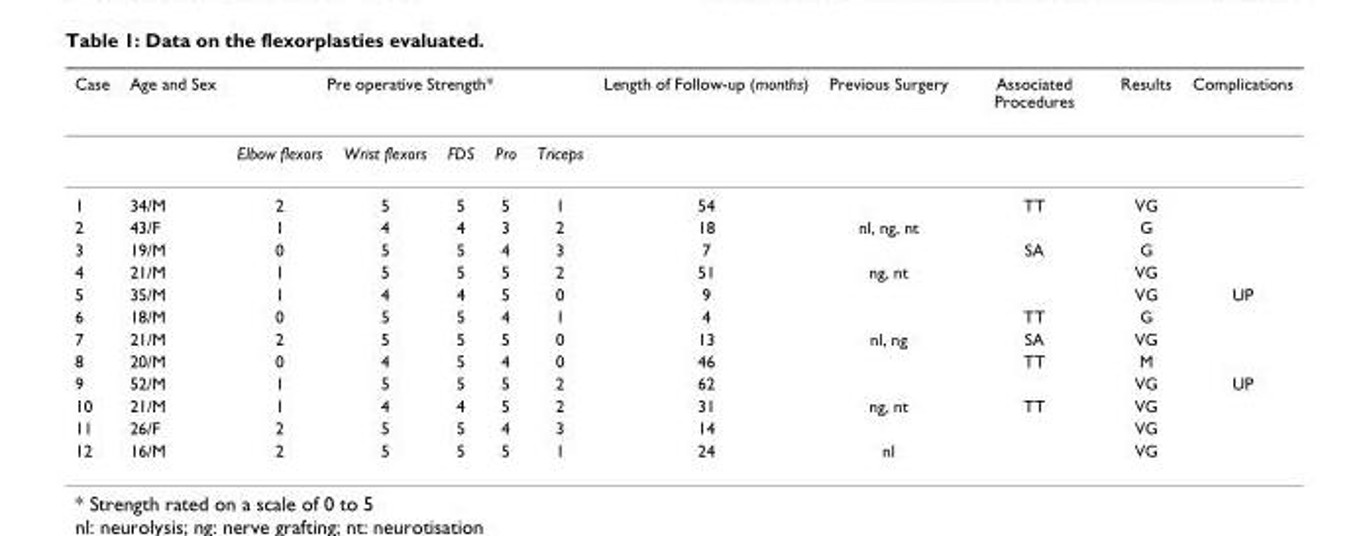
<table><thead><tr><td rowspan="2">Case</td><td rowspan="2">Age and Sex</td><td colspan="5">Pre operative Strength*</td><td rowspan="2">Length of Follow-up (months)</td><td rowspan="2">Previous Surgery</td><td rowspan="2">Associated Procedures</td><td rowspan="2">Results</td><td rowspan="2">Complications</td></tr><tr><td>Elbow flexors</td><td>Wrist flexors</td><td>FDS</td><td>Pro</td><td>Triceps</td></tr></thead><tbody><tr><td>1</td><td>34/M</td><td>2</td><td>5</td><td>5</td><td>5</td><td>1</td><td>54</td><td></td><td>TT</td><td>VG</td><td></td></tr><tr><td>2</td><td>43/F</td><td>1</td><td>4</td><td>4</td><td>3</td><td>2</td><td>18</td><td>nl, ng, nt</td><td></td><td>G</td><td></td></tr><tr><td>3</td><td>19/M</td><td>0</td><td>5</td><td>5</td><td>4</td><td>3</td><td>7</td><td></td><td>SA</td><td>G</td><td></td></tr><tr><td>4</td><td>21/M</td><td>1</td><td>5</td><td>5</td><td>5</td><td>2</td><td>51</td><td>ng, nt</td><td></td><td>VG</td><td></td></tr><tr><td>5</td><td>35/M</td><td>1</td><td>4</td><td>4</td><td>5</td><td>0</td><td>9</td><td></td><td></td><td>VG</td><td>UP</td></tr><tr><td>6</td><td>18/M</td><td>0</td><td>5</td><td>5</td><td>4</td><td>1</td><td>4</td><td></td><td>TT</td><td>G</td><td></td></tr><tr><td>7</td><td>21/M</td><td>2</td><td>5</td><td>5</td><td>5</td><td>0</td><td>13</td><td>nl, ng</td><td>SA</td><td>VG</td><td></td></tr><tr><td>8</td><td>20/M</td><td>0</td><td>4</td><td>5</td><td>4</td><td>0</td><td>46</td><td></td><td>TT</td><td>M</td><td></td></tr><tr><td>9</td><td>52/M</td><td>1</td><td>5</td><td>5</td><td>5</td><td>2</td><td>62</td><td></td><td></td><td>VG</td><td>UP</td></tr><tr><td>10</td><td>21/M</td><td>1</td><td>4</td><td>4</td><td>5</td><td>2</td><td>31</td><td>ng, nt</td><td>TT</td><td>VG</td><td></td></tr><tr><td>11</td><td>26/F</td><td>2</td><td>5</td><td>5</td><td>4</td><td>3</td><td>14</td><td></td><td></td><td>VG</td><td></td></tr><tr><td>12</td><td>16/M</td><td>2</td><td>5</td><td>5</td><td>5</td><td>1</td><td>24</td><td>nl</td><td></td><td>VG</td><td></td></tr></tbody></table>